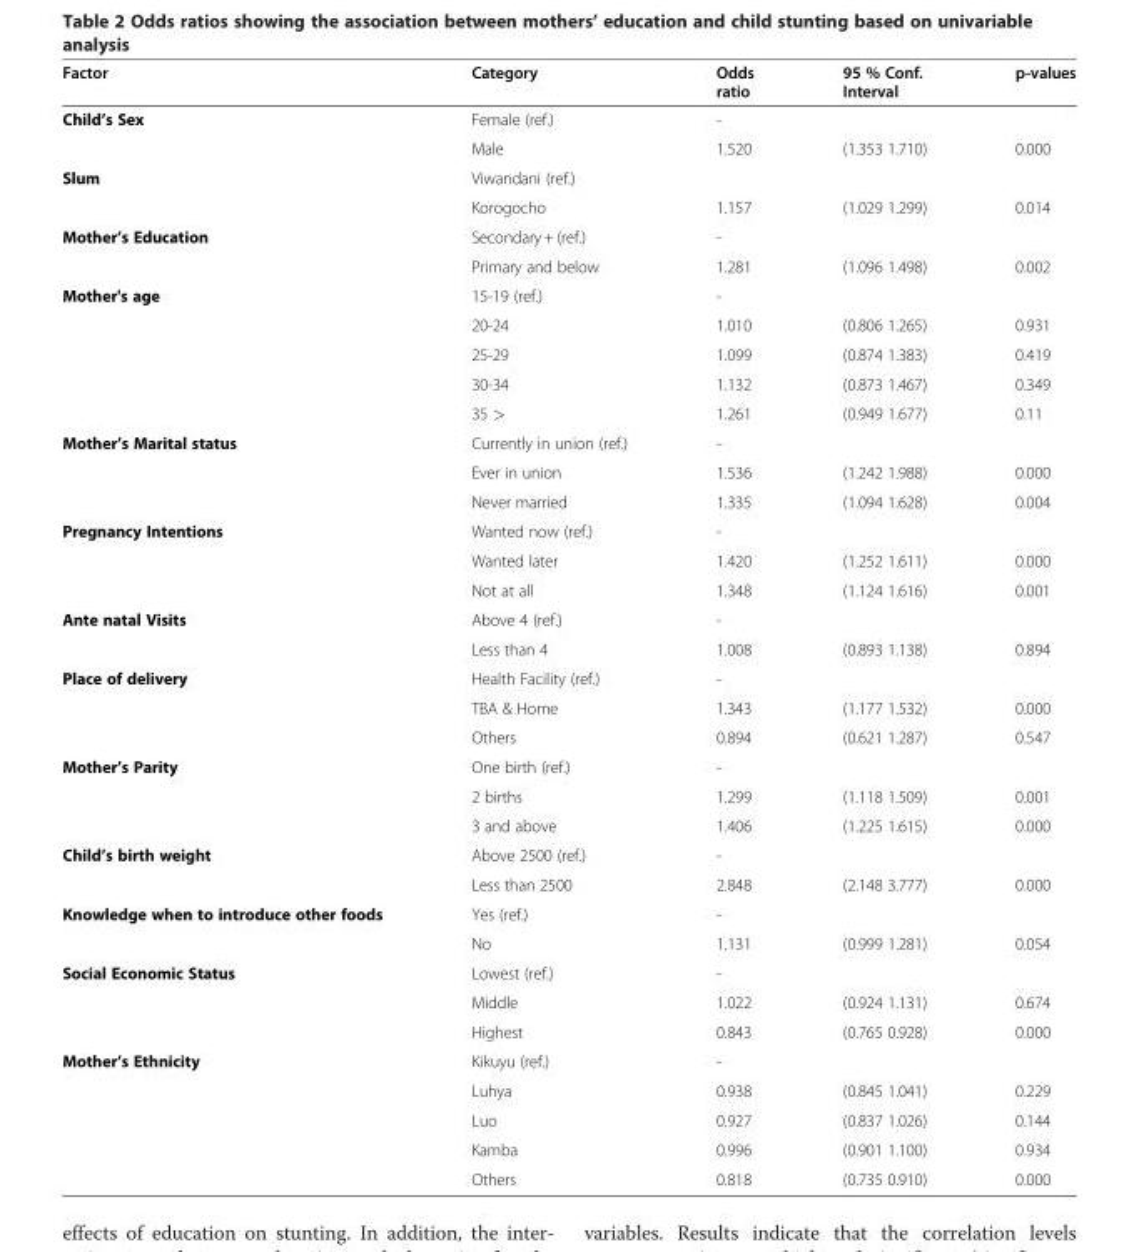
<table><thead><tr><td>Factor</td><td>Category</td><td>Odds ratio</td><td>95 % Conf. Interval</td><td>p-values</td></tr></thead><tbody><tr><td rowspan="2">Child’s Sex</td><td>Female (ref.)</td><td>-</td><td></td><td></td></tr><tr><td>Male</td><td>1.520</td><td>(1.353 1.710)</td><td>0.000</td></tr><tr><td rowspan="2">Slum</td><td>Viwandani (ref.)</td><td></td><td></td><td></td></tr><tr><td>Korogocho</td><td>1.157</td><td>(1.029 1.299)</td><td>0.014</td></tr><tr><td rowspan="2">Mother’s Education</td><td>Secondary + (ref.)</td><td>-</td><td></td><td></td></tr><tr><td>Primary and below</td><td>1.281</td><td>(1.096 1.498)</td><td>0.002</td></tr><tr><td rowspan="5">Mother&#x27;s age</td><td>15-19 (ref.)</td><td>-</td><td></td><td></td></tr><tr><td>20-24</td><td>1.010</td><td>(0.806 1.265)</td><td>0.931</td></tr><tr><td>25-29</td><td>1.099</td><td>(0.874 1.383)</td><td>0.419</td></tr><tr><td>30-34</td><td>1.132</td><td>(0.873 1.467)</td><td>0.349</td></tr><tr><td>35 &gt;</td><td>1.261</td><td>(0.949 1.677)</td><td>0.11</td></tr><tr><td rowspan="3">Mother’s Marital status</td><td>Currently in union (ref.)</td><td>-</td><td></td><td></td></tr><tr><td>Ever in union</td><td>1.536</td><td>(1.242 1.988)</td><td>0.000</td></tr><tr><td>Never married</td><td>1.335</td><td>(1.094 1.628)</td><td>0.004</td></tr><tr><td rowspan="3">Pregnancy Intentions</td><td>Wanted now (ref.)</td><td>-</td><td></td><td></td></tr><tr><td>Wanted later</td><td>1.420</td><td>(1.252 1.611)</td><td>0.000</td></tr><tr><td>Not at all</td><td>1.348</td><td>(1.124 1.616)</td><td>0.001</td></tr><tr><td rowspan="2">Ante natal Visits</td><td>Above 4 (ref.)</td><td>-</td><td></td><td></td></tr><tr><td>Less than 4</td><td>1.008</td><td>(0.893 1.138)</td><td>0.894</td></tr><tr><td rowspan="3">Place of delivery</td><td>Health Facility (ref.)</td><td>-</td><td></td><td></td></tr><tr><td>TBA &amp; Home</td><td>1.343</td><td>(1.177 1.532)</td><td>0.000</td></tr><tr><td>Others</td><td>0.894</td><td>(0.621 1.287)</td><td>0.547</td></tr><tr><td rowspan="3">Mother’s Parity</td><td>One birth (ref.)</td><td>-</td><td></td><td></td></tr><tr><td>2 births</td><td>1.299</td><td>(1.118 1.509)</td><td>0.001</td></tr><tr><td>3 and above</td><td>1.406</td><td>(1.225 1.615)</td><td>0.000</td></tr><tr><td rowspan="2">Child’s birth weight</td><td>Above 2500 (ref.)</td><td>-</td><td></td><td></td></tr><tr><td>Less than 2500</td><td>2.848</td><td>(2.148 3.777)</td><td>0.000</td></tr><tr><td rowspan="2">Knowledge when to introduce other foods</td><td>Yes (ref.)</td><td>-</td><td></td><td></td></tr><tr><td>No</td><td>1.131</td><td>(0.999 1.281)</td><td>0.054</td></tr><tr><td rowspan="3">Social Economic Status</td><td>Lowest (ref.)</td><td>-</td><td></td><td></td></tr><tr><td>Middle</td><td>1.022</td><td>(0.924 1.131)</td><td>0.674</td></tr><tr><td>Highest</td><td>0.843</td><td>(0.765 0.928)</td><td>0.000</td></tr><tr><td rowspan="5">Mother’s Ethnicity</td><td>Kikuyu (ref.)</td><td>-</td><td></td><td></td></tr><tr><td>Luhya</td><td>0.938</td><td>(0.845 1.041)</td><td>0.229</td></tr><tr><td>Luo</td><td>0.927</td><td>(0.837 1.026)</td><td>0.144</td></tr><tr><td>Kamba</td><td>0.996</td><td>(0.901 1.100)</td><td>0.934</td></tr><tr><td>Others</td><td>0.818</td><td>(0.735 0.910)</td><td>0.000</td></tr></tbody></table>